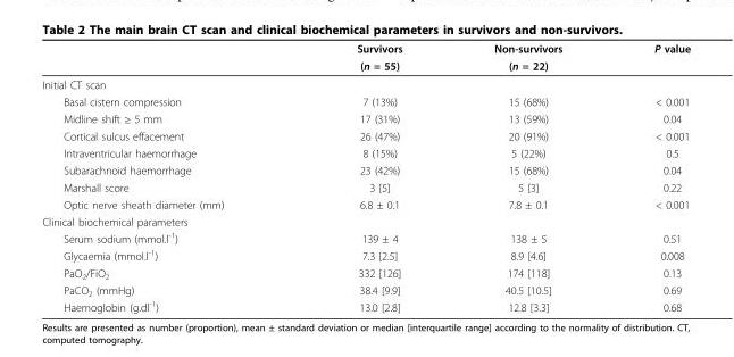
<table><thead><tr><td rowspan="2"></td><td rowspan="2">Survivors (n = 55)</td><td rowspan="2">Non-survivors (n = 22)</td><td rowspan="2">P value</td></tr><tr></tr></thead><tbody><tr><td colspan="4">Initial CT scan</td></tr><tr><td>Basal cistern compression</td><td>7 (13%)</td><td>15 (68%)</td><td>&lt; 0.001</td></tr><tr><td>Midline shift ≥ 5 mm</td><td>17 (31%)</td><td>13 (59%)</td><td>0.04</td></tr><tr><td>Cortical sulcus effacement</td><td>26 (47%)</td><td>20 (91%)</td><td>&lt; 0.001</td></tr><tr><td>Intraventricular haemorrhage</td><td>8 (15%)</td><td>5 (22%)</td><td>0.5</td></tr><tr><td>Subarachnoid haemorrhage</td><td>23 (42%)</td><td>15 (68%)</td><td>0.04</td></tr><tr><td>Marshall score</td><td>3 [5]</td><td>5 [3]</td><td>0.22</td></tr><tr><td>Optic nerve sheath diameter (mm)</td><td>6.8 ± 0.1</td><td>7.8 ± 0.1</td><td>&lt; 0.001</td></tr><tr><td colspan="4">Clinical biochemical parameters</td></tr><tr><td>Serum sodium (mmol.l<sup>-1</sup>)</td><td>139 ± 4</td><td>138 ± 5</td><td>0.51</td></tr><tr><td>Glycaemia (mmol.l<sup>-1</sup>)</td><td>7.3 [2.5]</td><td>8.9 [4.6]</td><td>0.008</td></tr><tr><td>PaO<sub>2</sub>/FiO<sub>2</sub></td><td>332 [126]</td><td>174 [118]</td><td>0.13</td></tr><tr><td>PaCO<sub>2</sub> (mmHg)</td><td>38.4 [9.9]</td><td>40.5 [10.5]</td><td>0.69</td></tr><tr><td>Haemoglobin (g.dl<sup>-1</sup>)</td><td>13.0 [2.8]</td><td>12.8 [3.3]</td><td>0.68</td></tr></tbody></table>